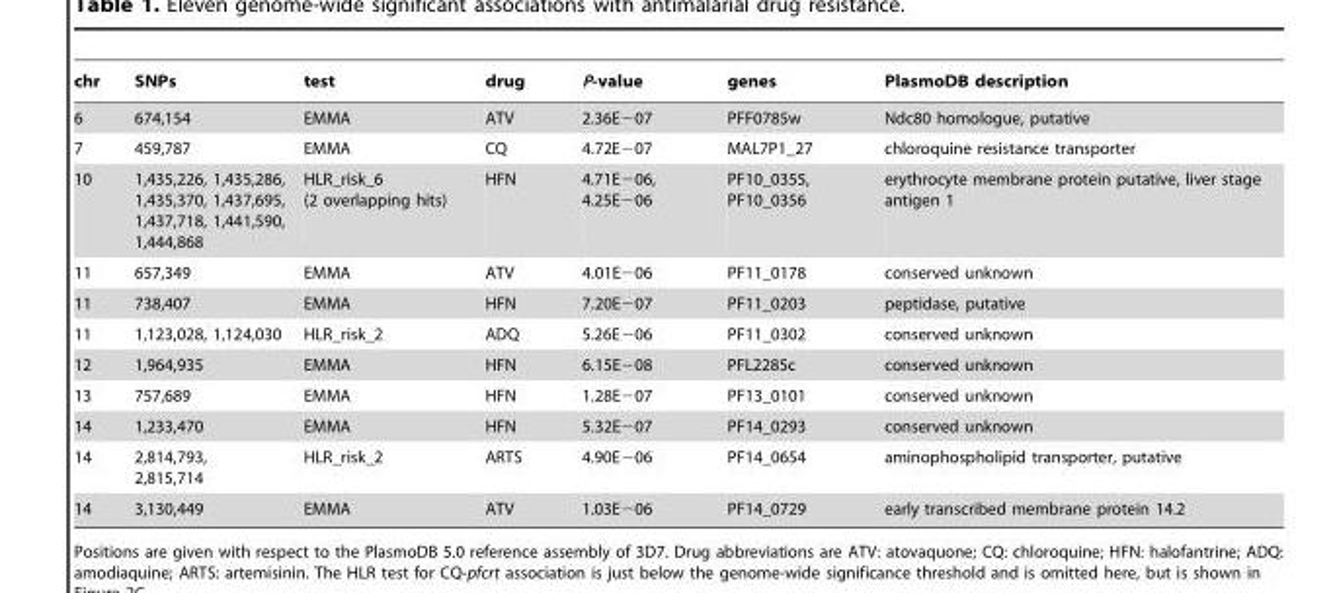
<table><thead><tr><td>chr</td><td>SNPs</td><td>test</td><td>drug</td><td>P-value</td><td>genes</td><td>PlasmoDB description</td></tr></thead><tbody><tr><td>6</td><td>674,154</td><td>EMMA</td><td>ATV</td><td>2.36E−07</td><td>PFF0785w</td><td>Ndc80 homologue, putative</td></tr><tr><td>7</td><td>459,787</td><td>EMMA</td><td>CQ</td><td>4.72E−07</td><td>MAL7P1_27</td><td>chloroquine resistance transporter</td></tr><tr><td>10</td><td>1,435,226, 1,435,286, 1,435,370, 1,437,695, 1,437,718, 1,441,590, 1,444,868</td><td>HLR_risk_6 (2 overlapping hits)</td><td>HFN</td><td>4.71E−06, 4.25E−06</td><td>PF10_0355, PF10_0356</td><td>erythrocyte membrane protein putative, liver stage antigen 1</td></tr><tr><td>11</td><td>657,349</td><td>EMMA</td><td>ATV</td><td>4.01E−06</td><td>PF11_0178</td><td>conserved unknown</td></tr><tr><td>11</td><td>738,407</td><td>EMMA</td><td>HFN</td><td>7.20E−07</td><td>PF11_0203</td><td>peptidase, putative</td></tr><tr><td>11</td><td>1,123,028, 1,124,030</td><td>HLR_risk_2</td><td>ADQ</td><td>5.26E−06</td><td>PF11_0302</td><td>conserved unknown</td></tr><tr><td>12</td><td>1,964,935</td><td>EMMA</td><td>HFN</td><td>6.15E−08</td><td>PFL2285c</td><td>conserved unknown</td></tr><tr><td>13</td><td>757,689</td><td>EMMA</td><td>HFN</td><td>1.28E−07</td><td>PF13_0101</td><td>conserved unknown</td></tr><tr><td>14</td><td>1,233,470</td><td>EMMA</td><td>HFN</td><td>5.32E−07</td><td>PF14_0293</td><td>conserved unknown</td></tr><tr><td>14</td><td>2,814,793, 2,815,714</td><td>HLR_risk_2</td><td>ARTS</td><td>4.90E−06</td><td>PF14_0654</td><td>aminophospholipid transporter, putative</td></tr><tr><td>14</td><td>3,130,449</td><td>EMMA</td><td>ATV</td><td>1.03E−06</td><td>PF14_0729</td><td>early transcribed membrane protein 14.2</td></tr></tbody></table>